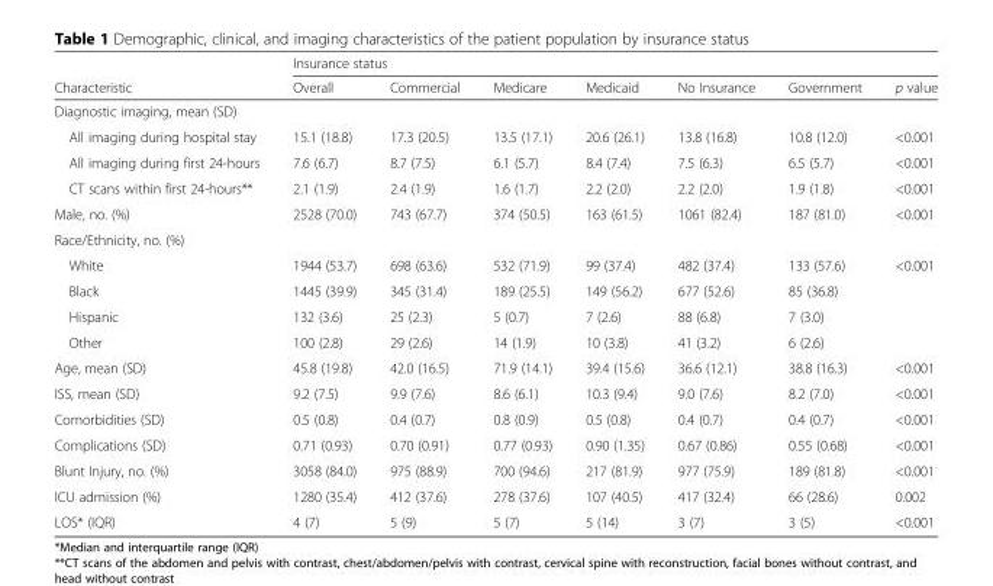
<table><thead><tr><td rowspan="2">Characteristic</td><td colspan="7">Insurance status</td></tr><tr><td>Overall</td><td>Commercial</td><td>Medicare</td><td>Medicaid</td><td>No Insurance</td><td>Government</td><td>p value</td></tr></thead><tbody><tr><td colspan="8">Diagnostic imaging, mean (SD)</td></tr><tr><td>All imaging during hospital stay</td><td>15.1 (18.8)</td><td>17.3 (20.5)</td><td>13.5 (17.1)</td><td>20.6 (26.1)</td><td>13.8 (16.8)</td><td>10.8 (12.0)</td><td>&lt;0.001</td></tr><tr><td>All imaging during first 24-hours</td><td>7.6 (6.7)</td><td>8.7 (7.5)</td><td>6.1 (5.7)</td><td>8.4 (7.4)</td><td>7.5 (6.3)</td><td>6.5 (5.7)</td><td>&lt;0.001</td></tr><tr><td>CT scans within first 24-hours**</td><td>2.1 (1.9)</td><td>2.4 (1.9)</td><td>1.6 (1.7)</td><td>2.2 (2.0)</td><td>2.2 (2.0)</td><td>1.9 (1.8)</td><td>&lt;0.001</td></tr><tr><td>Male, no. (%)</td><td>2528 (70.0)</td><td>743 (67.7)</td><td>374 (50.5)</td><td>163 (61.5)</td><td>1061 (82.4)</td><td>187 (81.0)</td><td>&lt;0.001</td></tr><tr><td colspan="8">Race/Ethnicity, no. (%)</td></tr><tr><td>White</td><td>1944 (53.7)</td><td>698 (63.6)</td><td>532 (71.9)</td><td>99 (37.4)</td><td>482 (37.4)</td><td>133 (57.6)</td><td>&lt;0.001</td></tr><tr><td>Black</td><td>1445 (39.9)</td><td>345 (31.4)</td><td>189 (25.5)</td><td>149 (56.2)</td><td>677 (52.6)</td><td>85 (36.8)</td><td></td></tr><tr><td>Hispanic</td><td>132 (3.6)</td><td>25 (2.3)</td><td>5 (0.7)</td><td>7 (2.6)</td><td>88 (6.8)</td><td>7 (3.0)</td><td></td></tr><tr><td>Other</td><td>100 (2.8)</td><td>29 (2.6)</td><td>14 (1.9)</td><td>10 (3.8)</td><td>41 (3.2)</td><td>6 (2.6)</td><td></td></tr><tr><td>Age, mean (SD)</td><td>45.8 (19.8)</td><td>42.0 (16.5)</td><td>71.9 (14.1)</td><td>39.4 (15.6)</td><td>36.6 (12.1)</td><td>38.8 (16.3)</td><td>&lt;0.001</td></tr><tr><td>ISS, mean (SD)</td><td>9.2 (7.5)</td><td>9.9 (7.6)</td><td>8.6 (6.1)</td><td>10.3 (9.4)</td><td>9.0 (7.6)</td><td>8.2 (7.0)</td><td>&lt;0.001</td></tr><tr><td>Comorbidities (SD)</td><td>0.5 (0.8)</td><td>0.4 (0.7)</td><td>0.8 (0.9)</td><td>0.5 (0.8)</td><td>0.4 (0.7)</td><td>0.4 (0.7)</td><td>&lt;0.001</td></tr><tr><td>Complications (SD)</td><td>0.71 (0.93)</td><td>0.70 (0.91)</td><td>0.77 (0.93)</td><td>0.90 (1.35)</td><td>0.67 (0.86)</td><td>0.55 (0.68)</td><td>&lt;0.001</td></tr><tr><td>Blunt Injury, no. (%)</td><td>3058 (84.0)</td><td>975 (88.9)</td><td>700 (94.6)</td><td>217 (81.9)</td><td>977 (75.9)</td><td>189 (81.8)</td><td>&lt;0.001</td></tr><tr><td>ICU admission (%)</td><td>1280 (35.4)</td><td>412 (37.6)</td><td>278 (37.6)</td><td>107 (40.5)</td><td>417 (32.4)</td><td>66 (28.6)</td><td>0.002</td></tr><tr><td>LOS* (IQR)</td><td>4 (7)</td><td>5 (9)</td><td>5 (7)</td><td>5 (14)</td><td>3 (7)</td><td>3 (5)</td><td>&lt;0.001</td></tr></tbody></table>